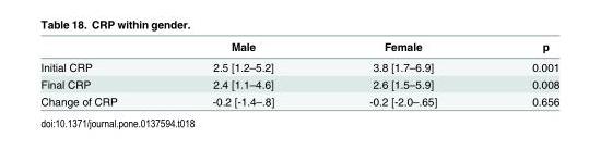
<table><thead><tr><td></td><td>Male</td><td>Female</td><td>p</td></tr></thead><tbody><tr><td>Initial CRP</td><td>2.5 [1.2–5.2]</td><td>3.8 [1.7–6.9]</td><td>0.001</td></tr><tr><td>Final CRP</td><td>2.4 [1.1–4.6]</td><td>2.6 [1.5–5.9]</td><td>0.008</td></tr><tr><td>Change of CRP</td><td>-0.2 [-1.4–.8]</td><td>-0.2 [-2.0–.65]</td><td>0.656</td></tr></tbody></table>